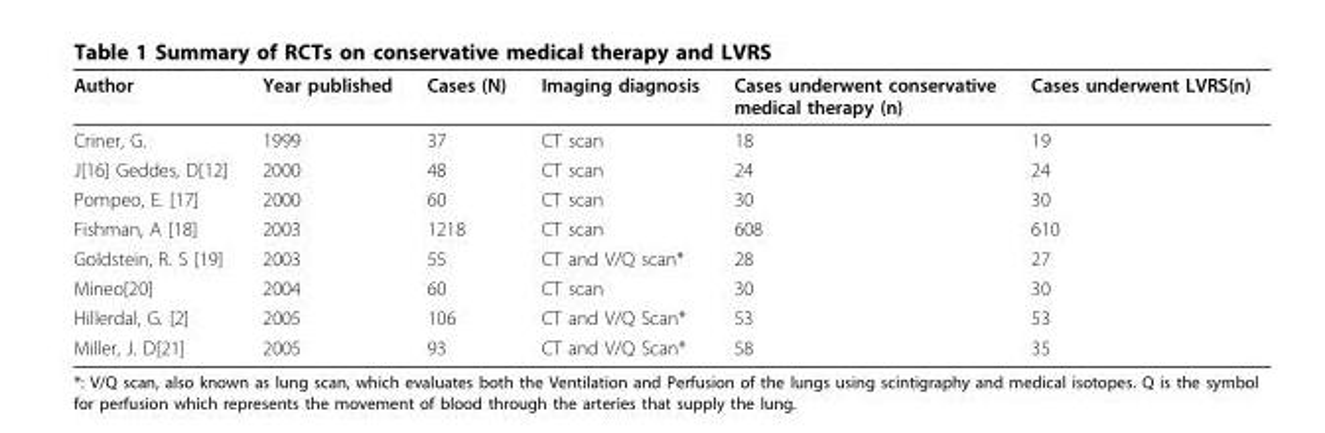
<table><thead><tr><td>Author</td><td>Year published</td><td>Cases (N)</td><td>Imaging diagnosis</td><td>Cases underwent conservative medical therapy (n)</td><td>Cases underwent LVRS(n)</td></tr></thead><tbody><tr><td>Criner, G.</td><td>1999</td><td>37</td><td>CT scan</td><td>18</td><td>19</td></tr><tr><td>J[16] Geddes, D[12]</td><td>2000</td><td>48</td><td>CT scan</td><td>24</td><td>24</td></tr><tr><td>Pompeo, E. [17]</td><td>2000</td><td>60</td><td>CT scan</td><td>30</td><td>30</td></tr><tr><td>Fishman, A [18]</td><td>2003</td><td>1218</td><td>CT scan</td><td>608</td><td>610</td></tr><tr><td>Goldstein, R. S [19]</td><td>2003</td><td>55</td><td>CT and V/Q scan*</td><td>28</td><td>27</td></tr><tr><td>Mineo[20]</td><td>2004</td><td>60</td><td>CT scan</td><td>30</td><td>30</td></tr><tr><td>Hillerdal, G. [2]</td><td>2005</td><td>106</td><td>CT and V/Q Scan*</td><td>53</td><td>53</td></tr><tr><td>Miller, J. D[21]</td><td>2005</td><td>93</td><td>CT and V/Q Scan*</td><td>58</td><td>35</td></tr></tbody></table>